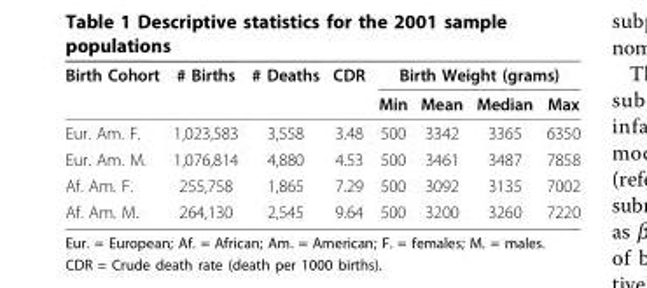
<table><thead><tr><td rowspan="2">Birth Cohort</td><td rowspan="2"># Births</td><td rowspan="2"># Deaths</td><td rowspan="2">CDR</td><td colspan="4">Birth Weight (grams)</td></tr><tr><td>Min</td><td>Mean</td><td>Median</td><td>Max</td></tr></thead><tbody><tr><td>Eur. Am. F.</td><td>1,023,583</td><td>3,558</td><td>3.48</td><td>500</td><td>3342</td><td>3365</td><td>6350</td></tr><tr><td>Eur. Am. M.</td><td>1,076,814</td><td>4,880</td><td>4.53</td><td>500</td><td>3461</td><td>3487</td><td>7858</td></tr><tr><td>Af. Am. F.</td><td>255,758</td><td>1,865</td><td>7.29</td><td>500</td><td>3092</td><td>3135</td><td>7002</td></tr><tr><td>Af. Am. M.</td><td>264,130</td><td>2,545</td><td>9.64</td><td>500</td><td>3200</td><td>3260</td><td>7220</td></tr></tbody></table>